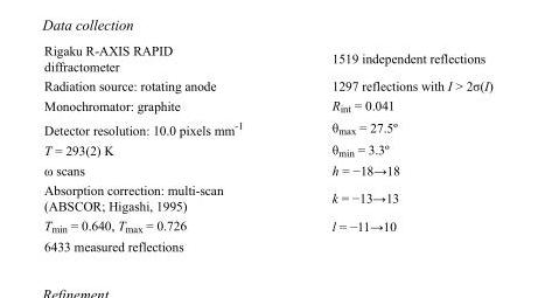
<table><tbody><tr><td>Rigaku R-AXIS RAPID diffractometer</td><td>1519 independent reflections</td></tr><tr><td>Radiation source: rotating anode</td><td>1297 reflections with I &gt; 2σ(I)</td></tr><tr><td>Monochromator: graphite</td><td>R<sub>int</sub> = 0.041</td></tr><tr><td>Detector resolution: 10.0 pixels mm<sup>-1</sup></td><td>θ<sub>max</sub> = 27.5º</td></tr><tr><td>T = 293(2) K</td><td>θ<sub>min</sub> = 3.3º</td></tr><tr><td>ω scans</td><td>h = −18→18</td></tr><tr><td>Absorption correction: multi-scan (ABSCOR; Higashi, 1995)</td><td>k = −13→13</td></tr><tr><td>T<sub>min</sub> = 0.640, T<sub>max</sub> = 0.726</td><td>l = −11→10</td></tr><tr><td>6433 measured reflections</td><td></td></tr></tbody></table>